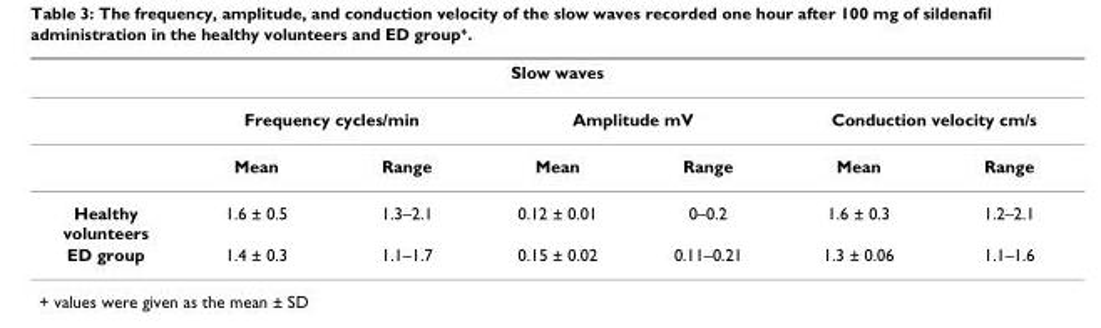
<table><thead><tr><td colspan="7">Slow waves</td></tr><tr><td rowspan="2"></td><td colspan="2">Frequency cycles/min</td><td colspan="2">Amplitude mV</td><td colspan="2">Conduction velocity cm/s</td></tr><tr><td>Mean</td><td>Range</td><td>Mean</td><td>Range</td><td>Mean</td><td>Range</td></tr></thead><tbody><tr><td>Healthy volunteers</td><td>1.6 ± 0.5</td><td>1.3–2.1</td><td>0.12 ± 0.01</td><td>0–0.2</td><td>1.6 ± 0.3</td><td>1.2–2.1</td></tr><tr><td>ED group</td><td>1.4 ± 0.3</td><td>1.1–1.7</td><td>0.15 ± 0.02</td><td>0.11–0.21</td><td>1.3 ± 0.06</td><td>1.1–1.6</td></tr></tbody></table>